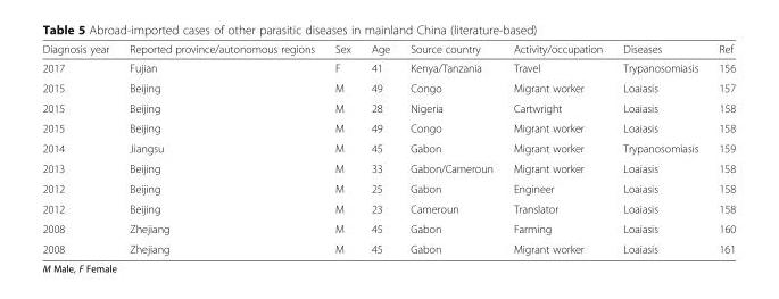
<table><thead><tr><td>Diagnosis year</td><td>Reported province/autonomous regions</td><td>Sex</td><td>Age</td><td>Source country</td><td>Activity/occupation</td><td>Diseases</td><td>Ref</td></tr></thead><tbody><tr><td>2017</td><td>Fujian</td><td>F</td><td>41</td><td>Kenya/Tanzania</td><td>Travel</td><td>Trypanosomiasis</td><td>156</td></tr><tr><td>2015</td><td>Beijing</td><td>M</td><td>49</td><td>Congo</td><td>Migrant worker</td><td>Loaiasis</td><td>157</td></tr><tr><td>2015</td><td>Beijing</td><td>M</td><td>28</td><td>Nigeria</td><td>Cartwright</td><td>Loaiasis</td><td>158</td></tr><tr><td>2015</td><td>Beijing</td><td>M</td><td>49</td><td>Congo</td><td>Migrant worker</td><td>Loaiasis</td><td>158</td></tr><tr><td>2014</td><td>Jiangsu</td><td>M</td><td>45</td><td>Gabon</td><td>Migrant worker</td><td>Trypanosomiasis</td><td>159</td></tr><tr><td>2013</td><td>Beijing</td><td>M</td><td>33</td><td>Gabon/Cameroun</td><td>Migrant worker</td><td>Loaiasis</td><td>158</td></tr><tr><td>2012</td><td>Beijing</td><td>M</td><td>25</td><td>Gabon</td><td>Engineer</td><td>Loaiasis</td><td>158</td></tr><tr><td>2012</td><td>Beijing</td><td>M</td><td>23</td><td>Cameroun</td><td>Translator</td><td>Loaiasis</td><td>158</td></tr><tr><td>2008</td><td>Zhejiang</td><td>M</td><td>45</td><td>Gabon</td><td>Farming</td><td>Loaiasis</td><td>160</td></tr><tr><td>2008</td><td>Zhejiang</td><td>M</td><td>45</td><td>Gabon</td><td>Migrant worker</td><td>Loaiasis</td><td>161</td></tr></tbody></table>